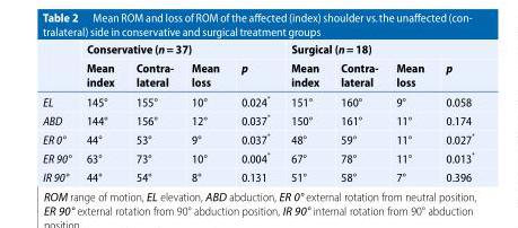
<table><thead><tr><td rowspan="2"></td><td colspan="4">Conservative (n= 37)</td><td colspan="4">Surgical (n= 18)</td></tr><tr><td>Mean index</td><td>Contra- lateral</td><td>Mean loss</td><td>p</td><td>Mean index</td><td>Contra- lateral</td><td>Mean loss</td><td>p</td></tr></thead><tbody><tr><td>EL</td><td>145°</td><td>155°</td><td>10°</td><td>0.024*</td><td>151°</td><td>160°</td><td>9°</td><td>0.058</td></tr><tr><td>ABD</td><td>144°</td><td>156°</td><td>12°</td><td>0.037*</td><td>150°</td><td>161°</td><td>11°</td><td>0.174</td></tr><tr><td>ER 0°</td><td>44°</td><td>53°</td><td>9°</td><td>0.037*</td><td>48°</td><td>59°</td><td>11°</td><td>0.027*</td></tr><tr><td>ER 90°</td><td>63°</td><td>73°</td><td>10°</td><td>0.004*</td><td>67°</td><td>78°</td><td>11°</td><td>0.013*</td></tr><tr><td>IR 90°</td><td>44°</td><td>54°</td><td>8°</td><td>0.131</td><td>51°</td><td>58°</td><td>7°</td><td>0.396</td></tr></tbody></table>